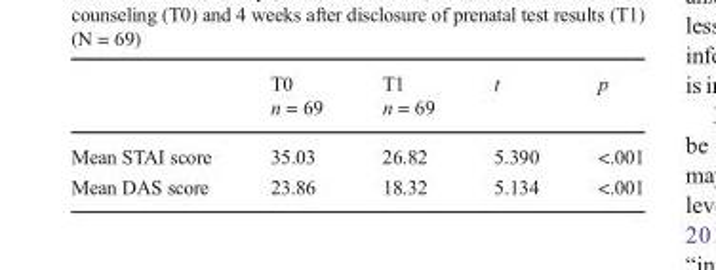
<table><thead><tr><td rowspan="2"></td><td rowspan="2">T0 n = 69</td><td rowspan="2">T1 n = 69</td><td rowspan="2">t</td><td rowspan="2">p</td></tr><tr></tr></thead><tbody><tr><td>Mean STAI score</td><td>35.03</td><td>26.82</td><td>5.390</td><td>&lt;.001</td></tr><tr><td>Mean DAS score</td><td>23.86</td><td>18.32</td><td>5.134</td><td>&lt;.001</td></tr></tbody></table>